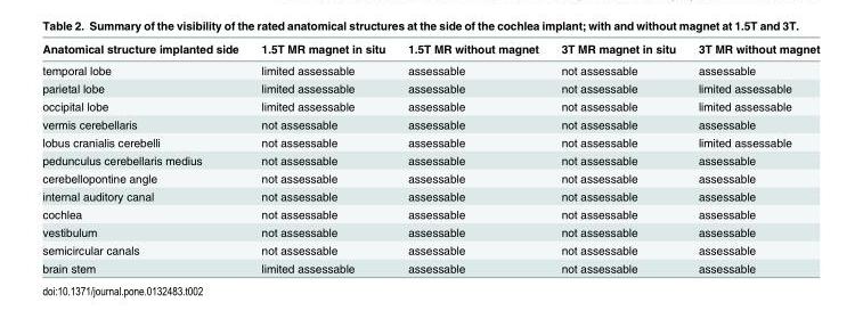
<table><thead><tr><td>Anatomical structure implanted side</td><td>1.5T MR magnet in situ</td><td>1.5T MR without magnet</td><td>3T MR magnet in situ</td><td>3T MR without magnet</td></tr></thead><tbody><tr><td>temporal lobe</td><td>limited assessable</td><td>assessable</td><td>not assessable</td><td>assessable</td></tr><tr><td>parietal lobe</td><td>limited assessable</td><td>assessable</td><td>not assessable</td><td>limited assessable</td></tr><tr><td>occipital lobe</td><td>limited assessable</td><td>assessable</td><td>not assessable</td><td>limited assessable</td></tr><tr><td>vermis cerebellaris</td><td>not assessable</td><td>assessable</td><td>not assessable</td><td>assessable</td></tr><tr><td>lobus cranialis cerebelli</td><td>not assessable</td><td>assessable</td><td>not assessable</td><td>limited assessable</td></tr><tr><td>pedunculus cerebellaris medius</td><td>not assessable</td><td>assessable</td><td>not assessable</td><td>assessable</td></tr><tr><td>cerebellopontine angle</td><td>not assessable</td><td>assessable</td><td>not assessable</td><td>assessable</td></tr><tr><td>internal auditory canal</td><td>not assessable</td><td>assessable</td><td>not assessable</td><td>assessable</td></tr><tr><td>cochlea</td><td>not assessable</td><td>assessable</td><td>not assessable</td><td>assessable</td></tr><tr><td>vestibulum</td><td>not assessable</td><td>assessable</td><td>not assessable</td><td>assessable</td></tr><tr><td>semicircular canals</td><td>not assessable</td><td>assessable</td><td>not assessable</td><td>assessable</td></tr><tr><td>brain stem</td><td>limited assessable</td><td>assessable</td><td>not assessable</td><td>assessable</td></tr></tbody></table>